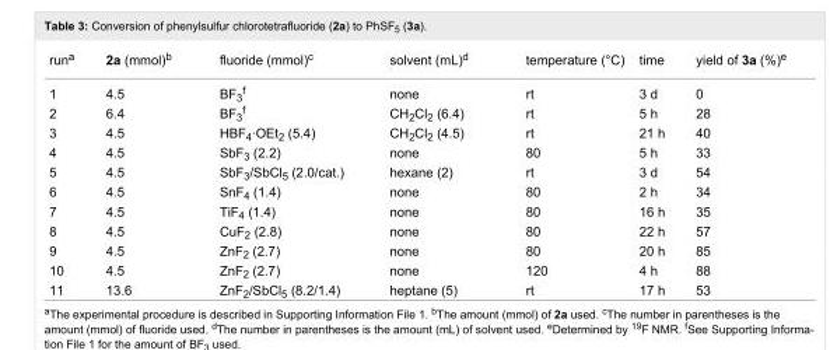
<table><tbody><tr><td>run<sup>a</sup></td><td>2a (mmol)<sup>b</sup></td><td>fluoride (mmol)<sup>c</sup></td><td>solvent (mL)<sup>d</sup></td><td>temperature (°C)</td><td>time</td><td>yield of 3a (%)<sup>e</sup></td></tr><tr><td>1</td><td>4.5</td><td>BF<sub>3</sub><sup>f</sup></td><td>none</td><td>rt</td><td>3 d</td><td>0</td></tr><tr><td>2</td><td>6.4</td><td>BF<sub>3</sub><sup>f</sup></td><td>CH<sub>2</sub>Cl<sub>2</sub> (6.4)</td><td>rt</td><td>5 h</td><td>28</td></tr><tr><td>3</td><td>4.5</td><td>HBF<sub>4</sub>·OEt<sub>2</sub> (5.4)</td><td>CH<sub>2</sub>Cl<sub>2</sub> (4.5)</td><td>rt</td><td>21 h</td><td>40</td></tr><tr><td>4</td><td>4.5</td><td>SbF<sub>3</sub> (2.2)</td><td>none</td><td>80</td><td>5 h</td><td>33</td></tr><tr><td>5</td><td>4.5</td><td>SbF<sub>3</sub>/SbCl<sub>5</sub> (2.0/cat.)</td><td>hexane (2)</td><td>rt</td><td>3 d</td><td>54</td></tr><tr><td>6</td><td>4.5</td><td>SnF<sub>4</sub> (1.4)</td><td>none</td><td>80</td><td>2 h</td><td>34</td></tr><tr><td>7</td><td>4.5</td><td>TiF<sub>4</sub> (1.4)</td><td>none</td><td>80</td><td>16 h</td><td>35</td></tr><tr><td>8</td><td>4.5</td><td>CuF<sub>2</sub> (2.8)</td><td>none</td><td>80</td><td>22 h</td><td>57</td></tr><tr><td>9</td><td>4.5</td><td>ZnF<sub>2</sub> (2.7)</td><td>none</td><td>80</td><td>20 h</td><td>85</td></tr><tr><td>10</td><td>4.5</td><td>ZnF<sub>2</sub> (2.7)</td><td>none</td><td>120</td><td>4 h</td><td>88</td></tr><tr><td>11</td><td>13.6</td><td>ZnF<sub>2</sub>/SbCl<sub>5</sub> (8.2/1.4)</td><td>heptane (5)</td><td>rt</td><td>17 h</td><td>53</td></tr></tbody></table>